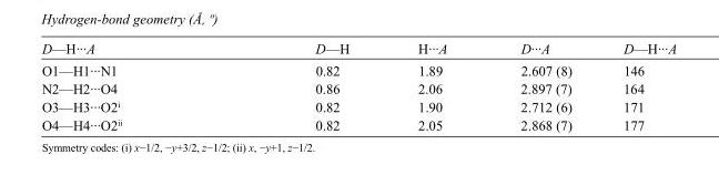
<table><tbody><tr><td>D—H···A</td><td>D—H</td><td>H···A</td><td>D···A</td><td>D—H···A</td></tr><tr><td>O1—H1···N1</td><td>0.82</td><td>1.89</td><td>2.607 (8)</td><td>146</td></tr><tr><td>N2—H2···O4</td><td>0.86</td><td>2.06</td><td>2.897 (7)</td><td>164</td></tr><tr><td>O3—H3···O2<sup>i</sup></td><td>0.82</td><td>1.90</td><td>2.712 (6)</td><td>171</td></tr><tr><td>O4—H4···O2<sup>ii</sup></td><td>0.82</td><td>2.05</td><td>2.868 (7)</td><td>177</td></tr></tbody></table>